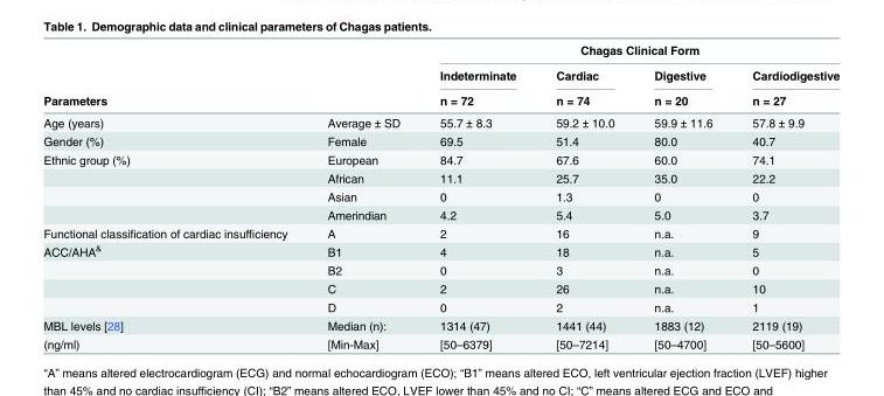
<table><thead><tr><td rowspan="3">Parameters</td><td rowspan="3"></td><td colspan="4">Chagas Clinical Form</td></tr><tr><td rowspan="2">Indeterminate n = 72</td><td rowspan="2">Cardiac n = 74</td><td rowspan="2">Digestive n = 20</td><td rowspan="2">Cardiodigestive n = 27</td></tr><tr></tr></thead><tbody><tr><td>Age (years)</td><td>Average ± SD</td><td>55.7 ± 8.3</td><td>59.2 ± 10.0</td><td>59.9 ± 11.6</td><td>57.8 ± 9.9</td></tr><tr><td>Gender (%)</td><td>Female</td><td>69.5</td><td>51.4</td><td>80.0</td><td>40.7</td></tr><tr><td rowspan="4">Ethnic group (%)</td><td>European</td><td>84.7</td><td>67.6</td><td>60.0</td><td>74.1</td></tr><tr><td>African</td><td>11.1</td><td>25.7</td><td>35.0</td><td>22.2</td></tr><tr><td>Asian</td><td>0</td><td>1.3</td><td>0</td><td>0</td></tr><tr><td>Amerindian</td><td>4.2</td><td>5.4</td><td>5.0</td><td>3.7</td></tr><tr><td>Functional classification of cardiac insufficiency</td><td>A</td><td>2</td><td>16</td><td>n.a.</td><td>9</td></tr><tr><td rowspan="4">ACC/AHA<sup>&amp;</sup></td><td>B1</td><td>4</td><td>18</td><td>n.a.</td><td>5</td></tr><tr><td>B2</td><td>0</td><td>3</td><td>n.a.</td><td>0</td></tr><tr><td>C</td><td>2</td><td>26</td><td>n.a.</td><td>10</td></tr><tr><td>D</td><td>0</td><td>2</td><td>n.a.</td><td>1</td></tr><tr><td>MBL levels [28]</td><td>Median (n):</td><td>1314 (47)</td><td>1441 (44)</td><td>1883 (12)</td><td>2119 (19)</td></tr><tr><td>(ng/ml)</td><td>[Min-Max]</td><td>[50–6379]</td><td>[50–7214]</td><td>[50–4700]</td><td>[50–5600]</td></tr></tbody></table>